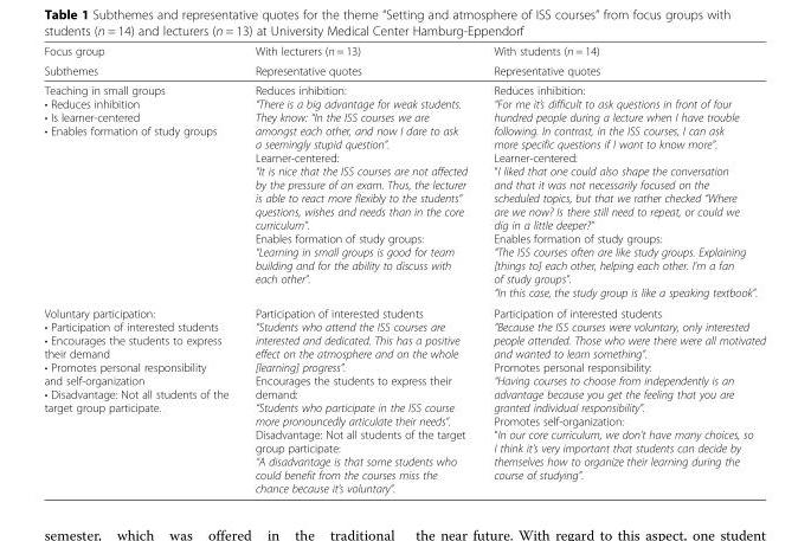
<table><thead><tr><td rowspan="2">Focus group Subthemes</td><td rowspan="2">With lecturers (n = 13) Representative quotes</td><td rowspan="2">With students (n = 14) Representative quotes</td></tr><tr></tr></thead><tbody><tr><td>Teaching in small groups • Reduces inhibition • Is learner-centered • Enables formation of study groups</td><td>Reduces inhibition: “There is a big advantage for weak students. They know: “In the ISS courses we are amongst each other, and now I dare to ask a seemingly stupid question”. Learner-centered: “It is nice that the ISS courses are not affected by the pressure of an exam. Thus, the lecturer is able to react more flexibly to the students” questions, wishes and needs than in the core curriculum”. Enables formation of study groups: “Learning in small groups is good for team building and for the ability to discuss with each other”.</td><td>Reduces inhibition: “For me it’s difficult to ask questions in front of four hundred people during a lecture when I have trouble following. In contrast, in the ISS courses, I can ask more specific questions if I want to know more”. Learner-centered: “I liked that one could also shape the conversation and that it was not necessarily focused on the scheduled topics, but that we rather checked “Where are we now? Is there still need to repeat, or could we dig in a little deeper?” Enables formation of study groups: “The ISS courses often are like study groups. Explaining [things to] each other, helping each other. I’m a fan of study groups”. “In this case, the study group is like a speaking textbook”.</td></tr><tr><td>Voluntary participation: • Participation of interested students • Encourages the students to express their demand • Promotes personal responsibility and self-organization • Disadvantage: Not all students of the target group participate.</td><td>Participation of interested students “Students who attend the ISS courses are interested and dedicated. This has a positive effect on the atmosphere and on the whole [learning] progress”. Encourages the students to express their demand: “Students who participate in the ISS course more pronouncedly articulate their needs”. Disadvantage: Not all students of the target group participate: “A disadvantage is that some students who could benefit from the courses miss the chance because it’s voluntary”.</td><td>Participation of interested students “Because the ISS courses were voluntary, only interested people attended. Those who were there were all motivated and wanted to learn something”. Promotes personal responsibility: “Having courses to choose from independently is an advantage because you get the feeling that you are granted individual responsibility”. Promotes self-organization: “In our core curriculum, we don’t have many choices, so I think it’s very important that students can decide by themselves how to organize their learning during the course of studying”.</td></tr></tbody></table>